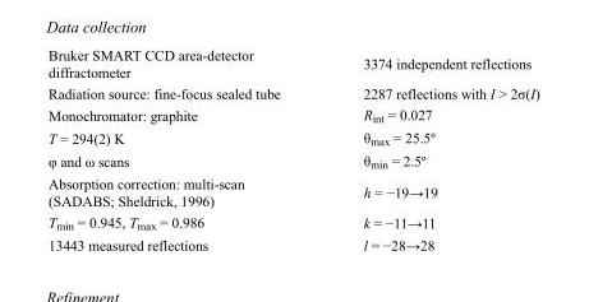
<table><tbody><tr><td>Bruker SMART CCD area-detector diffractometer</td><td>3374 independent reflections</td></tr><tr><td>Radiation source: fine-focus sealed tube</td><td>2287 reflections with I &gt; 2σ(I)</td></tr><tr><td>Monochromator: graphite</td><td>R<sub>int</sub> = 0.027</td></tr><tr><td>T = 294(2) K</td><td>θ<sub>max</sub> = 25.5º</td></tr><tr><td>φ and ω scans</td><td>θ<sub>min</sub> = 2.5º</td></tr><tr><td>Absorption correction: multi-scan (SADABS; Sheldrick, 1996)</td><td>h = −19→19</td></tr><tr><td>T<sub>min</sub> = 0.945, T<sub>max</sub> = 0.986</td><td>k = −11→11</td></tr><tr><td>13443 measured reflections</td><td>l = −28→28</td></tr></tbody></table>